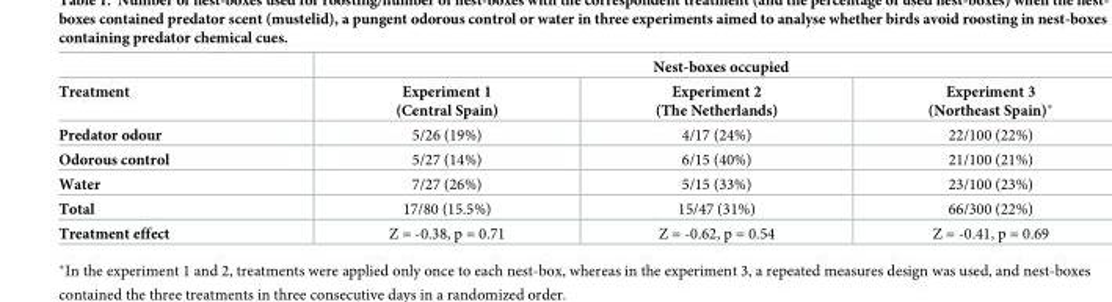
<table><thead><tr><td rowspan="2">Treatment</td><td colspan="3">Nest-boxes occupied</td></tr><tr><td>Experiment 1 (Central Spain)</td><td>Experiment 2 (The Netherlands)</td><td>Experiment 3 (Northeast Spain)*</td></tr></thead><tbody><tr><td>Predator odour</td><td>5/26 (19%)</td><td>4/17 (24%)</td><td>22/100 (22%)</td></tr><tr><td>Odorous control</td><td>5/27 (14%)</td><td>6/15 (40%)</td><td>21/100 (21%)</td></tr><tr><td>Water</td><td>7/27 (26%)</td><td>5/15 (33%)</td><td>23/100 (23%)</td></tr><tr><td>Total</td><td>17/80 (15.5%)</td><td>15/47 (31%)</td><td>66/300 (22%)</td></tr><tr><td>Treatment effect</td><td>Z = -0.38, p = 0.71</td><td>Z = -0.62, p = 0.54</td><td>Z = -0.41, p = 0.69</td></tr></tbody></table>